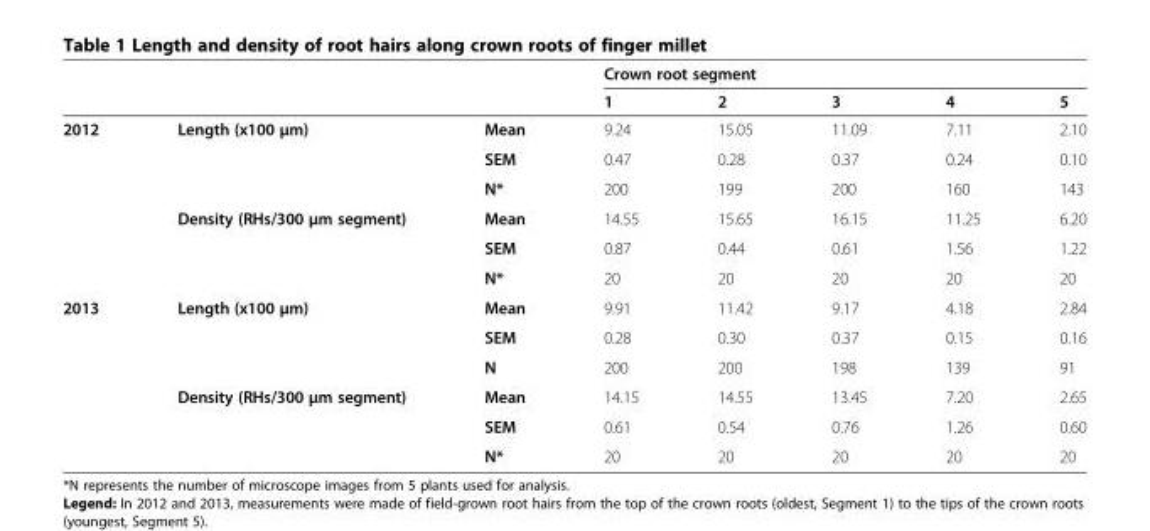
<table><thead><tr><td rowspan="2"></td><td rowspan="2"></td><td rowspan="2"></td><td colspan="5">Crown root segment</td></tr><tr><td>1</td><td>2</td><td>3</td><td>4</td><td>5</td></tr></thead><tbody><tr><td rowspan="6">2012</td><td rowspan="3">Length (x100 μm)</td><td>Mean</td><td>9.24</td><td>15.05</td><td>11.09</td><td>7.11</td><td>2.10</td></tr><tr><td>SEM</td><td>0.47</td><td>0.28</td><td>0.37</td><td>0.24</td><td>0.10</td></tr><tr><td>N*</td><td>200</td><td>199</td><td>200</td><td>160</td><td>143</td></tr><tr><td rowspan="3">Density (RHs/300 μm segment)</td><td>Mean</td><td>14.55</td><td>15.65</td><td>16.15</td><td>11.25</td><td>6.20</td></tr><tr><td>SEM</td><td>0.87</td><td>0.44</td><td>0.61</td><td>1.56</td><td>1.22</td></tr><tr><td>N*</td><td>20</td><td>20</td><td>20</td><td>20</td><td>20</td></tr><tr><td rowspan="6">2013</td><td rowspan="3">Length (x100 μm)</td><td>Mean</td><td>9.91</td><td>11.42</td><td>9.17</td><td>4.18</td><td>2.84</td></tr><tr><td>SEM</td><td>0.28</td><td>0.30</td><td>0.37</td><td>0.15</td><td>0.16</td></tr><tr><td>N</td><td>200</td><td>200</td><td>198</td><td>139</td><td>91</td></tr><tr><td rowspan="3">Density (RHs/300 μm segment)</td><td>Mean</td><td>14.15</td><td>14.55</td><td>13.45</td><td>7.20</td><td>2.65</td></tr><tr><td>SEM</td><td>0.61</td><td>0.54</td><td>0.76</td><td>1.26</td><td>0.60</td></tr><tr><td>N*</td><td>20</td><td>20</td><td>20</td><td>20</td><td>20</td></tr></tbody></table>